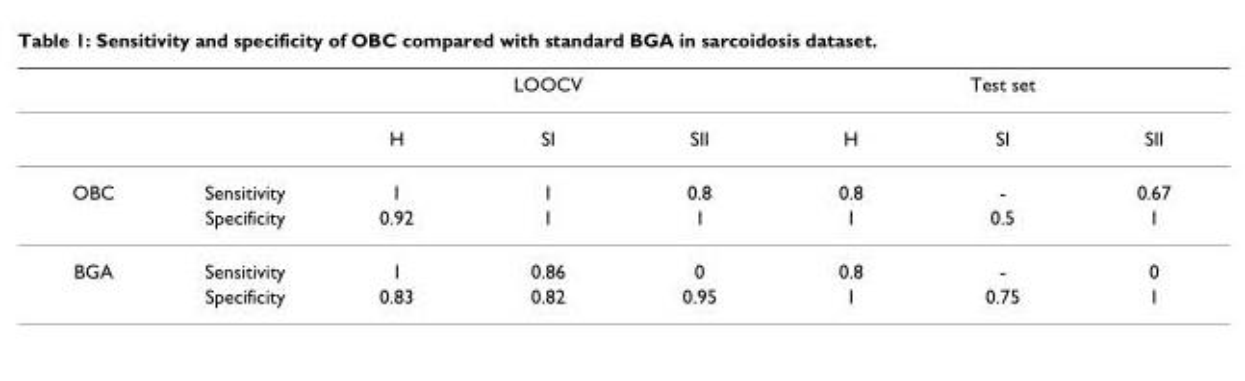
<table><thead><tr><td rowspan="2"></td><td rowspan="2"></td><td colspan="3">LOOCV</td><td colspan="3">Test set</td></tr><tr><td>H</td><td>SI</td><td>SII</td><td>H</td><td>SI</td><td>SII</td></tr></thead><tbody><tr><td rowspan="2">OBC</td><td>Sensitivity</td><td>1</td><td>1</td><td>0.8</td><td>0.8</td><td>-</td><td>0.67</td></tr><tr><td>Specificity</td><td>0.92</td><td>1</td><td>1</td><td>1</td><td>0.5</td><td>1</td></tr><tr><td rowspan="2">BGA</td><td>Sensitivity</td><td>1</td><td>0.86</td><td>0</td><td>0.8</td><td>-</td><td>0</td></tr><tr><td>Specificity</td><td>0.83</td><td>0.82</td><td>0.95</td><td>1</td><td>0.75</td><td>1</td></tr></tbody></table>